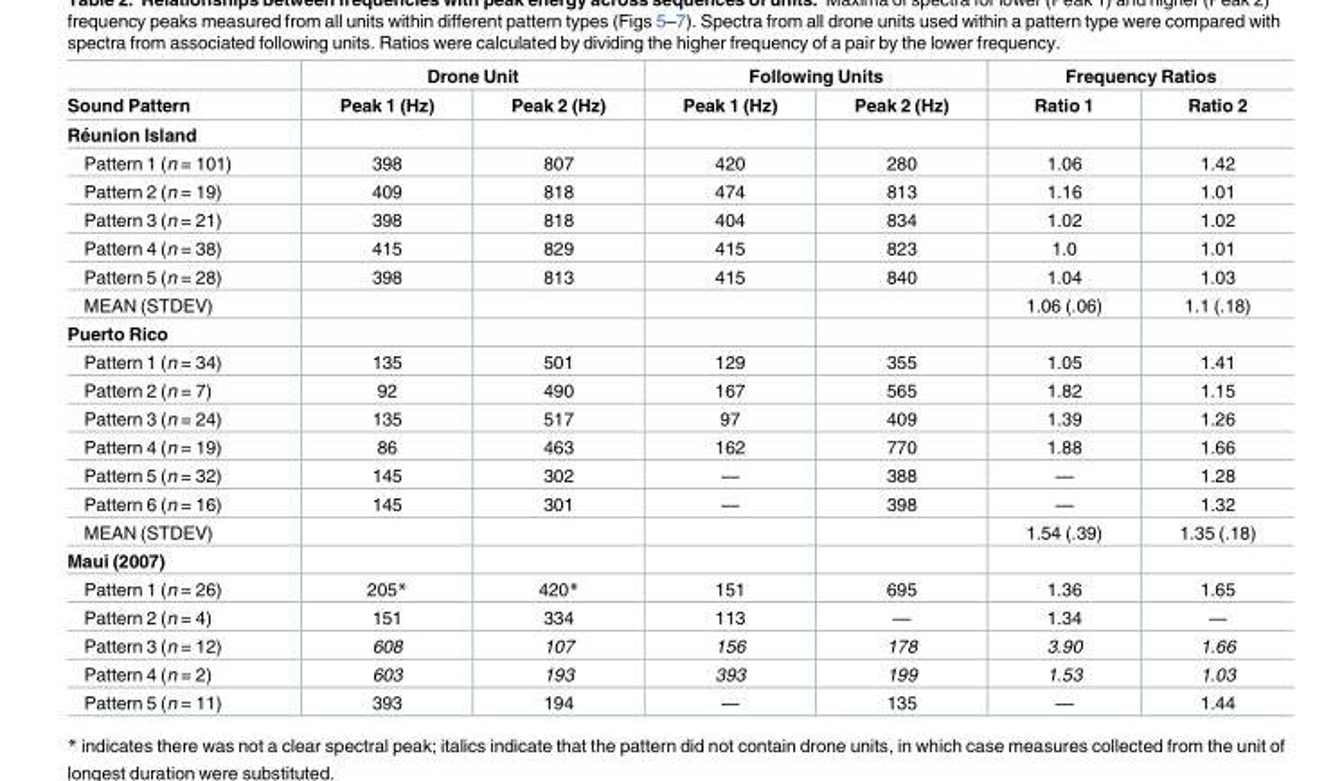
<table><thead><tr><td rowspan="2">Sound Pattern</td><td colspan="2">Drone Unit</td><td colspan="2">Following Units</td><td colspan="2">Frequency Ratios</td></tr><tr><td>Peak 1 (Hz)</td><td>Peak 2 (Hz)</td><td>Peak 1 (Hz)</td><td>Peak 2 (Hz)</td><td>Ratio 1</td><td>Ratio 2</td></tr></thead><tbody><tr><td colspan="7">Re´union Island</td></tr><tr><td>Pattern 1 (n = 101)</td><td>398</td><td>807</td><td>420</td><td>280</td><td>1.06</td><td>1.42</td></tr><tr><td>Pattern 2 (n = 19)</td><td>409</td><td>818</td><td>474</td><td>813</td><td>1.16</td><td>1.01</td></tr><tr><td>Pattern 3 (n = 21)</td><td>398</td><td>818</td><td>404</td><td>834</td><td>1.02</td><td>1.02</td></tr><tr><td>Pattern 4 (n = 38)</td><td>415</td><td>829</td><td>415</td><td>823</td><td>1.0</td><td>1.01</td></tr><tr><td>Pattern 5 (n = 28)</td><td>398</td><td>813</td><td>415</td><td>840</td><td>1.04</td><td>1.03</td></tr><tr><td>MEAN (STDEV)</td><td></td><td></td><td></td><td></td><td>1.06 (.06)</td><td>1.1 (.18)</td></tr><tr><td colspan="7">Puerto Rico</td></tr><tr><td>Pattern 1 (n = 34)</td><td>135</td><td>501</td><td>129</td><td>355</td><td>1.05</td><td>1.41</td></tr><tr><td>Pattern 2 (n = 7)</td><td>92</td><td>490</td><td>167</td><td>565</td><td>1.82</td><td>1.15</td></tr><tr><td>Pattern 3 (n = 24)</td><td>135</td><td>517</td><td>97</td><td>409</td><td>1.39</td><td>1.26</td></tr><tr><td>Pattern 4 (n = 19)</td><td>86</td><td>463</td><td>162</td><td>770</td><td>1.88</td><td>1.66</td></tr><tr><td>Pattern 5 (n = 32)</td><td>145</td><td>302</td><td>—</td><td>388</td><td>—</td><td>1.28</td></tr><tr><td>Pattern 6 (n = 16)</td><td>145</td><td>301</td><td>—</td><td>398</td><td>—</td><td>1.32</td></tr><tr><td>MEAN (STDEV)</td><td></td><td></td><td></td><td></td><td>1.54 (.39)</td><td>1.35 (.18)</td></tr><tr><td colspan="7">Maui (2007)</td></tr><tr><td>Pattern 1 (n = 26)</td><td>205*</td><td>420*</td><td>151</td><td>695</td><td>1.36</td><td>1.65</td></tr><tr><td>Pattern 2 (n = 4)</td><td>151</td><td>334</td><td>113</td><td>—</td><td>1.34</td><td>—</td></tr><tr><td>Pattern 3 (n = 12)</td><td>608</td><td>107</td><td>156</td><td>178</td><td>3.90</td><td>1.66</td></tr><tr><td>Pattern 4 (n = 2)</td><td>603</td><td>193</td><td>393</td><td>199</td><td>1.53</td><td>1.03</td></tr><tr><td>Pattern 5 (n = 11)</td><td>393</td><td>194</td><td>—</td><td>135</td><td>—</td><td>1.44</td></tr></tbody></table>